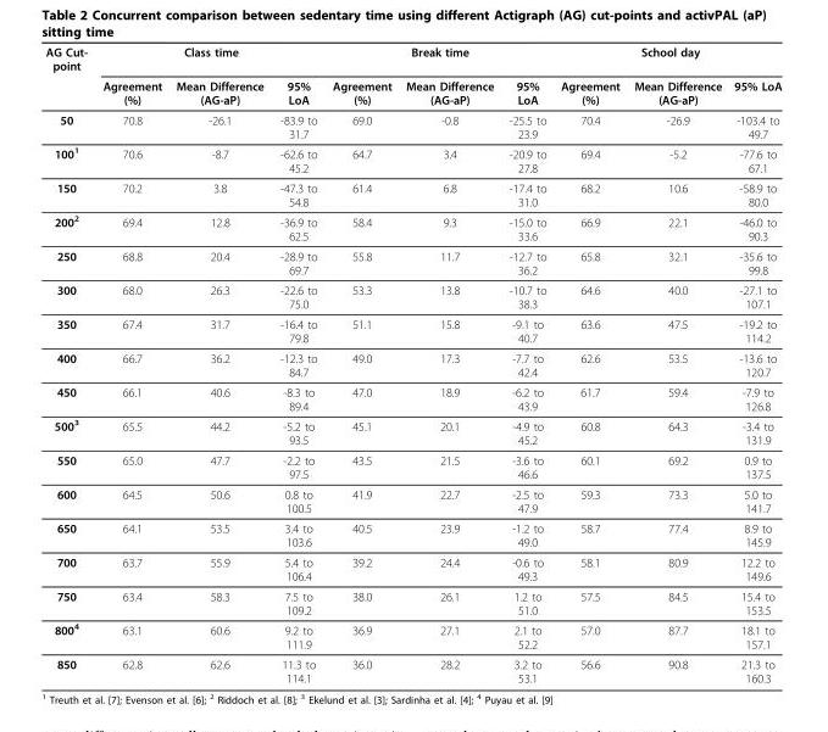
<table><thead><tr><td rowspan="2">AG Cut- point</td><td colspan="3">Class time</td><td colspan="3">Break time</td><td colspan="3">School day</td></tr><tr><td>Agreement (%)</td><td>Mean Difference (AG-aP)</td><td>95% LoA</td><td>Agreement (%)</td><td>Mean Difference (AG-aP)</td><td>95% LoA</td><td>Agreement (%)</td><td>Mean Difference (AG-aP)</td><td>95% LoA</td></tr></thead><tbody><tr><td>50</td><td>70.8</td><td>-26.1</td><td>-83.9 to 31.7</td><td>69.0</td><td>-0.8</td><td>-25.5 to 23.9</td><td>70.4</td><td>-26.9</td><td>-103.4 to 49.7</td></tr><tr><td>100<sup>1</sup></td><td>70.6</td><td>-8.7</td><td>-62.6 to 45.2</td><td>64.7</td><td>3.4</td><td>-20.9 to 27.8</td><td>69.4</td><td>-5.2</td><td>-77.6 to 67.1</td></tr><tr><td>150</td><td>70.2</td><td>3.8</td><td>-47.3 to 54.8</td><td>61.4</td><td>6.8</td><td>-17.4 to 31.0</td><td>68.2</td><td>10.6</td><td>-58.9 to 80.0</td></tr><tr><td>200<sup>2</sup></td><td>69.4</td><td>12.8</td><td>-36.9 to 62.5</td><td>58.4</td><td>9.3</td><td>-15.0 to 33.6</td><td>66.9</td><td>22.1</td><td>-46.0 to 90.3</td></tr><tr><td>250</td><td>68.8</td><td>20.4</td><td>-28.9 to 69.7</td><td>55.8</td><td>11.7</td><td>-12.7 to 36.2</td><td>65.8</td><td>32.1</td><td>-35.6 to 99.8</td></tr><tr><td>300</td><td>68.0</td><td>26.3</td><td>-22.6 to 75.0</td><td>53.3</td><td>13.8</td><td>-10.7 to 38.3</td><td>64.6</td><td>40.0</td><td>-27.1 to 107.1</td></tr><tr><td>350</td><td>67.4</td><td>31.7</td><td>-16.4 to 79.8</td><td>51.1</td><td>15.8</td><td>-9.1 to 40.7</td><td>63.6</td><td>47.5</td><td>-19.2 to 114.2</td></tr><tr><td>400</td><td>66.7</td><td>36.2</td><td>-12.3 to 84.7</td><td>49.0</td><td>17.3</td><td>-7.7 to 42.4</td><td>62.6</td><td>53.5</td><td>-13.6 to 120.7</td></tr><tr><td>450</td><td>66.1</td><td>40.6</td><td>-8.3 to 89.4</td><td>47.0</td><td>18.9</td><td>-6.2 to 43.9</td><td>61.7</td><td>59.4</td><td>-7.9 to 126.8</td></tr><tr><td>500<sup>3</sup></td><td>65.5</td><td>44.2</td><td>-5.2 to 93.5</td><td>45.1</td><td>20.1</td><td>-4.9 to 45.2</td><td>60.8</td><td>64.3</td><td>-3.4 to 131.9</td></tr><tr><td>550</td><td>65.0</td><td>47.7</td><td>-2.2 to 97.5</td><td>43.5</td><td>21.5</td><td>-3.6 to 46.6</td><td>60.1</td><td>69.2</td><td>0.9 to 137.5</td></tr><tr><td>600</td><td>64.5</td><td>50.6</td><td>0.8 to 100.5</td><td>41.9</td><td>22.7</td><td>-2.5 to 47.9</td><td>59.3</td><td>73.3</td><td>5.0 to 141.7</td></tr><tr><td>650</td><td>64.1</td><td>53.5</td><td>3.4 to 103.6</td><td>40.5</td><td>23.9</td><td>-1.2 to 49.0</td><td>58.7</td><td>77.4</td><td>8.9 to 145.9</td></tr><tr><td>700</td><td>63.7</td><td>55.9</td><td>5.4 to 106.4</td><td>39.2</td><td>24.4</td><td>-0.6 to 49.3</td><td>58.1</td><td>80.9</td><td>12.2 to 149.6</td></tr><tr><td>750</td><td>63.4</td><td>58.3</td><td>7.5 to 109.2</td><td>38.0</td><td>26.1</td><td>1.2 to 51.0</td><td>57.5</td><td>84.5</td><td>15.4 to 153.5</td></tr><tr><td>800<sup>4</sup></td><td>63.1</td><td>60.6</td><td>9.2 to 111.9</td><td>36.9</td><td>27.1</td><td>2.1 to 52.2</td><td>57.0</td><td>87.7</td><td>18.1 to 157.1</td></tr><tr><td>850</td><td>62.8</td><td>62.6</td><td>11.3 to 114.1</td><td>36.0</td><td>28.2</td><td>3.2 to 53.1</td><td>56.6</td><td>90.8</td><td>21.3 to 160.3</td></tr></tbody></table>